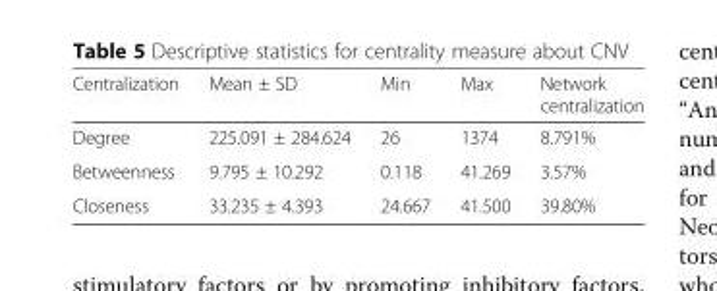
<table><thead><tr><td>Centralization</td><td>Mean ± SD</td><td>Min</td><td>Max</td><td>Network centralization</td></tr></thead><tbody><tr><td>Degree</td><td>225.091 ± 284.624</td><td>26</td><td>1374</td><td>8.791%</td></tr><tr><td>Betweenness</td><td>9.795 ± 10.292</td><td>0.118</td><td>41.269</td><td>3.57%</td></tr><tr><td>Closeness</td><td>33.235 ± 4.393</td><td>24.667</td><td>41.500</td><td>39.80%</td></tr></tbody></table>